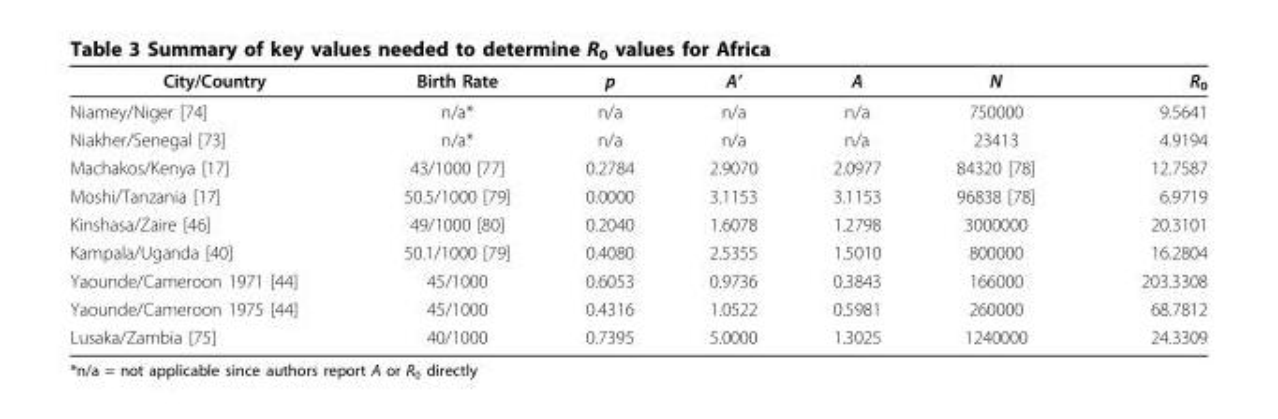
<table><thead><tr><td>City/Country</td><td>Birth Rate</td><td>p</td><td>A’</td><td>A</td><td>N</td><td>R<sub>0</sub></td></tr></thead><tbody><tr><td>Niamey/Niger [74]</td><td>n/a*</td><td>n/a</td><td>n/a</td><td>n/a</td><td>750000</td><td>9.5641</td></tr><tr><td>Niakher/Senegal [73]</td><td>n/a*</td><td>n/a</td><td>n/a</td><td>n/a</td><td>23413</td><td>4.9194</td></tr><tr><td>Machakos/Kenya [17]</td><td>43/1000 [77]</td><td>0.2784</td><td>2.9070</td><td>2.0977</td><td>84320 [78]</td><td>12.7587</td></tr><tr><td>Moshi/Tanzania [17]</td><td>50.5/1000 [79]</td><td>0.0000</td><td>3.1153</td><td>3.1153</td><td>96838 [78]</td><td>6.9719</td></tr><tr><td>Kinshasa/Zaire [46]</td><td>49/1000 [80]</td><td>0.2040</td><td>1.6078</td><td>1.2798</td><td>3000000</td><td>20.3101</td></tr><tr><td>Kampala/Uganda [40]</td><td>50.1/1000 [79]</td><td>0.4080</td><td>2.5355</td><td>1.5010</td><td>800000</td><td>16.2804</td></tr><tr><td>Yaounde/Cameroon 1971 [44]</td><td>45/1000</td><td>0.6053</td><td>0.9736</td><td>0.3843</td><td>166000</td><td>203.3308</td></tr><tr><td>Yaounde/Cameroon 1975 [44]</td><td>45/1000</td><td>0.4316</td><td>1.0522</td><td>0.5981</td><td>260000</td><td>68.7812</td></tr><tr><td>Lusaka/Zambia [75]</td><td>40/1000</td><td>0.7395</td><td>5.0000</td><td>1.3025</td><td>1240000</td><td>24.3309</td></tr></tbody></table>